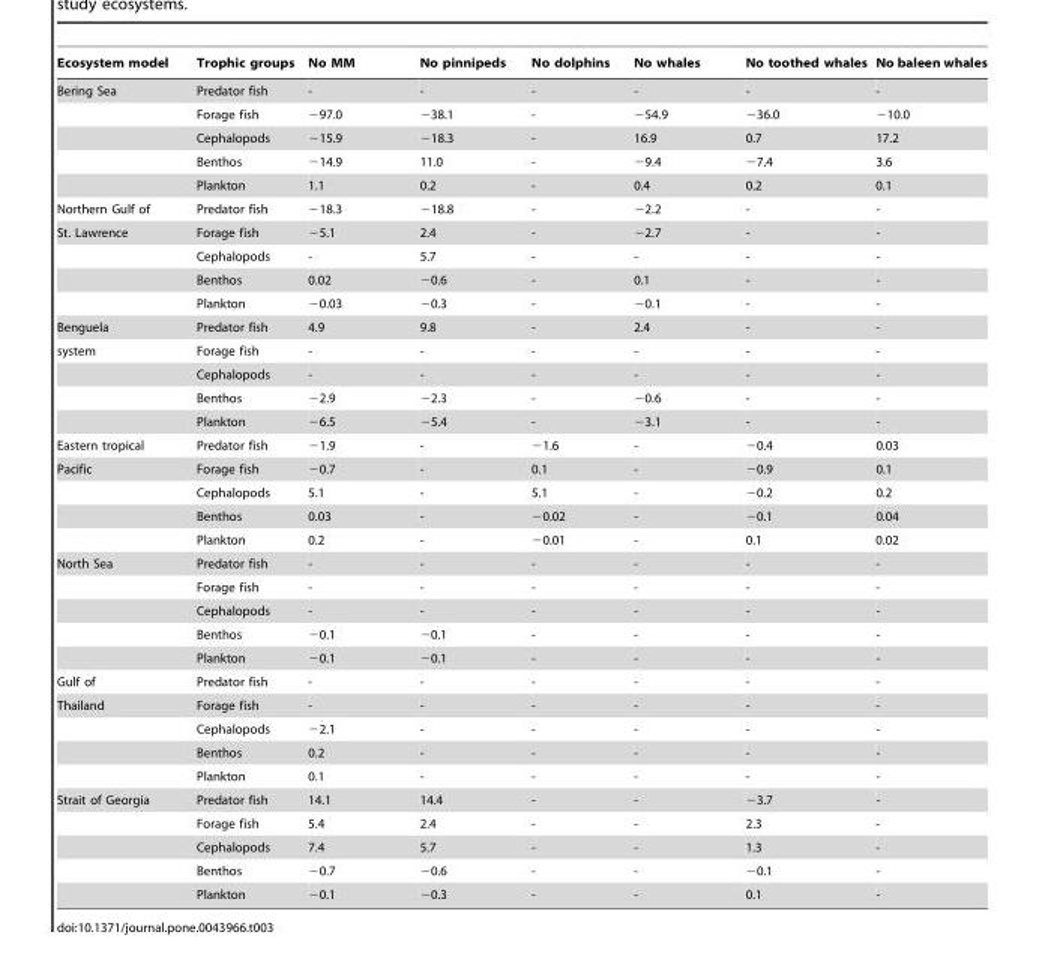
<table><thead><tr><td>Ecosystem model</td><td>Trophic groups</td><td>No MM</td><td>No pinnipeds</td><td>No dolphins</td><td>No whales</td><td>No toothed whales</td><td>No baleen whales</td></tr></thead><tbody><tr><td rowspan="5">Bering Sea</td><td>Predator fish</td><td>-</td><td>-</td><td>-</td><td>-</td><td>-</td><td>-</td></tr><tr><td>Forage fish</td><td>−97.0</td><td>−38.1</td><td>-</td><td>−54.9</td><td>−36.0</td><td>−10.0</td></tr><tr><td>Cephalopods</td><td>−15.9</td><td>−18.3</td><td>-</td><td>16.9</td><td>0.7</td><td>17.2</td></tr><tr><td>Benthos</td><td>−14.9</td><td>11.0</td><td>-</td><td>−9.4</td><td>−7.4</td><td>3.6</td></tr><tr><td>Plankton</td><td>1.1</td><td>0.2</td><td>-</td><td>0.4</td><td>0.2</td><td>0.1</td></tr><tr><td>Northern Gulf of</td><td>Predator fish</td><td>−18.3</td><td>−18.8</td><td>-</td><td>−2.2</td><td>-</td><td>-</td></tr><tr><td rowspan="4">St. Lawrence</td><td>Forage fish</td><td>−5.1</td><td>2.4</td><td>-</td><td>−2.7</td><td>-</td><td>-</td></tr><tr><td>Cephalopods</td><td>-</td><td>5.7</td><td>-</td><td>-</td><td>-</td><td>-</td></tr><tr><td>Benthos</td><td>0.02</td><td>−0.6</td><td>-</td><td>0.1</td><td>-</td><td>-</td></tr><tr><td>Plankton</td><td>−0.03</td><td>−0.3</td><td>-</td><td>−0.1</td><td>-</td><td>-</td></tr><tr><td>Benguela</td><td>Predator fish</td><td>4.9</td><td>9.8</td><td>-</td><td>2.4</td><td>-</td><td>-</td></tr><tr><td rowspan="4">system</td><td>Forage fish</td><td>-</td><td>-</td><td>-</td><td>-</td><td>-</td><td>-</td></tr><tr><td>Cephalopods</td><td>-</td><td>-</td><td>-</td><td>-</td><td>-</td><td>-</td></tr><tr><td>Benthos</td><td>−2.9</td><td>−2.3</td><td>-</td><td>−0.6</td><td>-</td><td>-</td></tr><tr><td>Plankton</td><td>−6.5</td><td>−5.4</td><td>-</td><td>−3.1</td><td>-</td><td>-</td></tr><tr><td>Eastern tropical</td><td>Predator fish</td><td>−1.9</td><td>-</td><td>−1.6</td><td>-</td><td>−0.4</td><td>0.03</td></tr><tr><td rowspan="4">Pacific</td><td>Forage fish</td><td>−0.7</td><td>-</td><td>0.1</td><td>-</td><td>−0.9</td><td>0.1</td></tr><tr><td>Cephalopods</td><td>5.1</td><td>-</td><td>5.1</td><td>-</td><td>−0.2</td><td>0.2</td></tr><tr><td>Benthos</td><td>0.03</td><td>-</td><td>−0.02</td><td>-</td><td>−0.1</td><td>0.04</td></tr><tr><td>Plankton</td><td>0.2</td><td>-</td><td>−0.01</td><td>-</td><td>0.1</td><td>0.02</td></tr><tr><td rowspan="5">North Sea</td><td>Predator fish</td><td>-</td><td>-</td><td>-</td><td>-</td><td>-</td><td>-</td></tr><tr><td>Forage fish</td><td>-</td><td>-</td><td>-</td><td>-</td><td>-</td><td>-</td></tr><tr><td>Cephalopods</td><td>-</td><td>-</td><td>-</td><td>-</td><td>-</td><td>-</td></tr><tr><td>Benthos</td><td>−0.1</td><td>−0.1</td><td>-</td><td>-</td><td>-</td><td>-</td></tr><tr><td>Plankton</td><td>−0.1</td><td>−0.1</td><td>-</td><td>-</td><td>-</td><td>-</td></tr><tr><td>Gulf of</td><td>Predator fish</td><td>-</td><td>-</td><td>-</td><td>-</td><td>-</td><td>-</td></tr><tr><td rowspan="4">Thailand</td><td>Forage fish</td><td>-</td><td>-</td><td>-</td><td>-</td><td>-</td><td>-</td></tr><tr><td>Cephalopods</td><td>−2.1</td><td>-</td><td>-</td><td>-</td><td>-</td><td>-</td></tr><tr><td>Benthos</td><td>0.2</td><td>-</td><td>-</td><td>-</td><td>-</td><td>-</td></tr><tr><td>Plankton</td><td>0.1</td><td>-</td><td>-</td><td>-</td><td>-</td><td>-</td></tr><tr><td rowspan="5">Strait of Georgia</td><td>Predator fish</td><td>14.1</td><td>14.4</td><td>-</td><td>-</td><td>−3.7</td><td>-</td></tr><tr><td>Forage fish</td><td>5.4</td><td>2.4</td><td>-</td><td>-</td><td>2.3</td><td>-</td></tr><tr><td>Cephalopods</td><td>7.4</td><td>5.7</td><td>-</td><td>-</td><td>1.3</td><td>-</td></tr><tr><td>Benthos</td><td>−0.7</td><td>−0.6</td><td>-</td><td>-</td><td>−0.1</td><td>-</td></tr><tr><td>Plankton</td><td>−0.1</td><td>−0.3</td><td>-</td><td>-</td><td>0.1</td><td>-</td></tr></tbody></table>